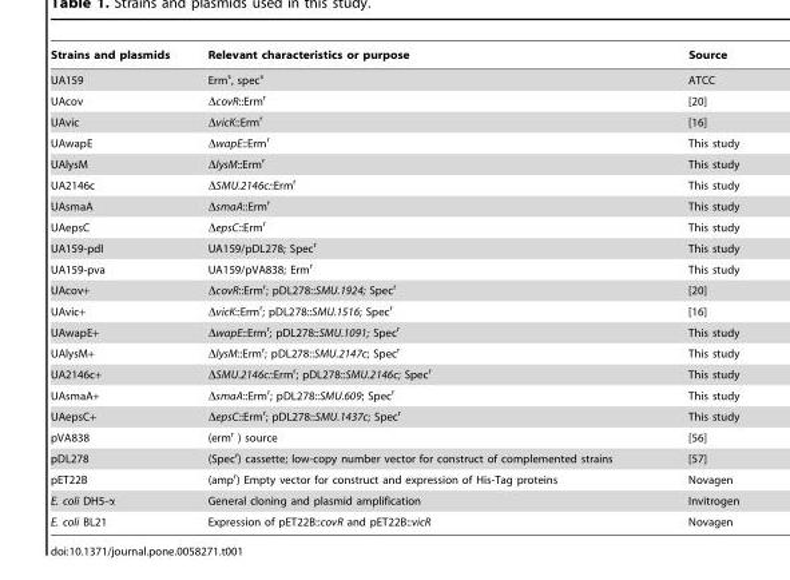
<table><thead><tr><td>Strains and plasmids</td><td>Relevant characteristics or purpose</td><td>Source</td></tr></thead><tbody><tr><td>UA159</td><td>Erm<sup>s</sup>, spec<sup>s</sup></td><td>ATCC</td></tr><tr><td>UAcov</td><td>ΔcovR::Erm<sup>r</sup></td><td>[20]</td></tr><tr><td>UAvic</td><td>ΔvicK::Erm<sup>r</sup></td><td>[16]</td></tr><tr><td>UAwapE</td><td>ΔwapE::Erm<sup>r</sup></td><td>This study</td></tr><tr><td>UAlysM</td><td>ΔlysM::Erm<sup>r</sup></td><td>This study</td></tr><tr><td>UA2146c</td><td>ΔSMU.2146c::Erm<sup>r</sup></td><td>This study</td></tr><tr><td>UAsmaA</td><td>ΔsmaA::Erm<sup>r</sup></td><td>This study</td></tr><tr><td>UAepsC</td><td>ΔepsC::Erm<sup>r</sup></td><td>This study</td></tr><tr><td>UA159-pdl</td><td>UA159/pDL278; Spec<sup>r</sup></td><td>This study</td></tr><tr><td>UA159-pva</td><td>UA159/pVA838; Erm<sup>r</sup></td><td>This study</td></tr><tr><td>UAcov+</td><td>ΔcovR::Erm<sup>r</sup>; pDL278::SMU.1924; Spec<sup>r</sup></td><td>[20]</td></tr><tr><td>UAvic+</td><td>ΔvicK::Erm<sup>r</sup>; pDL278::SMU.1516; Spec<sup>r</sup></td><td>[16]</td></tr><tr><td>UAwapE+</td><td>ΔwapE::Erm<sup>r</sup>; pDL278::SMU.1091; Spec<sup>r</sup></td><td>This study</td></tr><tr><td>UAlysM+</td><td>ΔlysM::Erm<sup>r</sup>; pDL278::SMU.2147c; Spec<sup>r</sup></td><td>This study</td></tr><tr><td>UA2146c+</td><td>ΔSMU.2146c::Erm<sup>r</sup>; pDL278::SMU.2146c; Spec<sup>r</sup></td><td>This study</td></tr><tr><td>UAsmaA+</td><td>ΔsmaA::Erm<sup>r</sup>; pDL278::SMU.609; Spec<sup>r</sup></td><td>This study</td></tr><tr><td>UAepsC+</td><td>ΔepsC::Erm<sup>r</sup>; pDL278::SMU.1437c; Spec<sup>r</sup></td><td>This study</td></tr><tr><td>pVA838</td><td>(erm<sup>r</sup> ) source</td><td>[56]</td></tr><tr><td>pDL278</td><td>(Spec<sup>r</sup>) cassette; low-copy number vector for construct of complemented strains</td><td>[57]</td></tr><tr><td>pET22B</td><td>(amp<sup>r</sup>) Empty vector for construct and expression of His-Tag proteins</td><td>Novagen</td></tr><tr><td>E. coli DH5-α</td><td>General cloning and plasmid amplification</td><td>Invitrogen</td></tr><tr><td>E. coli BL21</td><td>Expression of pET22B::covR and pET22B::vicR</td><td>Novagen</td></tr></tbody></table>